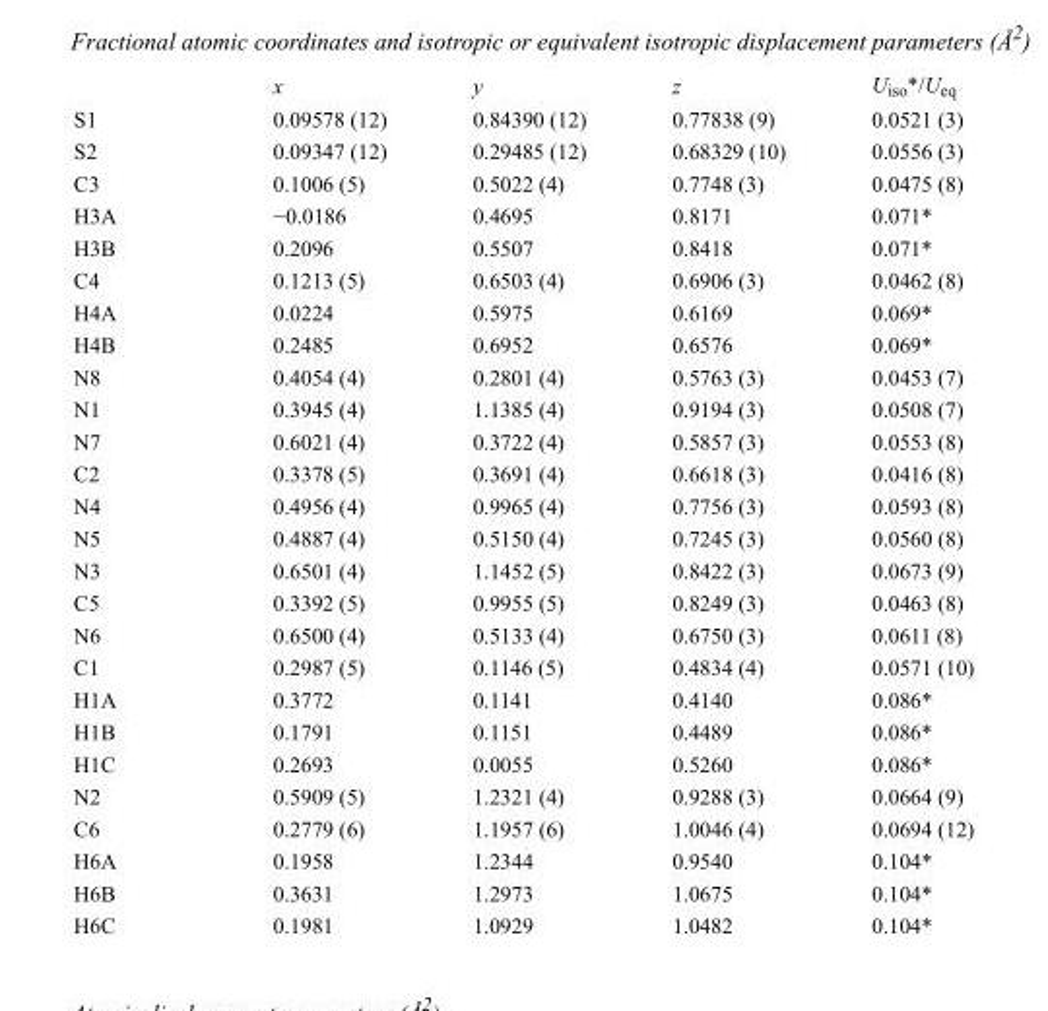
<table><thead><tr><td></td><td>x</td><td>y</td><td>z</td><td>U<sub>iso</sub>*/U<sub>eq</sub></td></tr></thead><tbody><tr><td>S1</td><td>0.09578 (12)</td><td>0.84390 (12)</td><td>0.77838 (9)</td><td>0.0521 (3)</td></tr><tr><td>S2</td><td>0.09347 (12)</td><td>0.29485 (12)</td><td>0.68329 (10)</td><td>0.0556 (3)</td></tr><tr><td>C3</td><td>0.1006 (5)</td><td>0.5022 (4)</td><td>0.7748 (3)</td><td>0.0475 (8)</td></tr><tr><td>H3A</td><td>−0.0186</td><td>0.4695</td><td>0.8171</td><td>0.071*</td></tr><tr><td>H3B</td><td>0.2096</td><td>0.5507</td><td>0.8418</td><td>0.071*</td></tr><tr><td>C4</td><td>0.1213 (5)</td><td>0.6503 (4)</td><td>0.6906 (3)</td><td>0.0462 (8)</td></tr><tr><td>H4A</td><td>0.0224</td><td>0.5975</td><td>0.6169</td><td>0.069*</td></tr><tr><td>H4B</td><td>0.2485</td><td>0.6952</td><td>0.6576</td><td>0.069*</td></tr><tr><td>N8</td><td>0.4054 (4)</td><td>0.2801 (4)</td><td>0.5763 (3)</td><td>0.0453 (7)</td></tr><tr><td>N1</td><td>0.3945 (4)</td><td>1.1385 (4)</td><td>0.9194 (3)</td><td>0.0508 (7)</td></tr><tr><td>N7</td><td>0.6021 (4)</td><td>0.3722 (4)</td><td>0.5857 (3)</td><td>0.0553 (8)</td></tr><tr><td>C2</td><td>0.3378 (5)</td><td>0.3691 (4)</td><td>0.6618 (3)</td><td>0.0416 (8)</td></tr><tr><td>N4</td><td>0.4956 (4)</td><td>0.9965 (4)</td><td>0.7756 (3)</td><td>0.0593 (8)</td></tr><tr><td>N5</td><td>0.4887 (4)</td><td>0.5150 (4)</td><td>0.7245 (3)</td><td>0.0560 (8)</td></tr><tr><td>N3</td><td>0.6501 (4)</td><td>1.1452 (5)</td><td>0.8422 (3)</td><td>0.0673 (9)</td></tr><tr><td>C5</td><td>0.3392 (5)</td><td>0.9955 (5)</td><td>0.8249 (3)</td><td>0.0463 (8)</td></tr><tr><td>N6</td><td>0.6500 (4)</td><td>0.5133 (4)</td><td>0.6750 (3)</td><td>0.0611 (8)</td></tr><tr><td>C1</td><td>0.2987 (5)</td><td>0.1146 (5)</td><td>0.4834 (4)</td><td>0.0571 (10)</td></tr><tr><td>H1A</td><td>0.3772</td><td>0.1141</td><td>0.4140</td><td>0.086*</td></tr><tr><td>H1B</td><td>0.1791</td><td>0.1151</td><td>0.4489</td><td>0.086*</td></tr><tr><td>H1C</td><td>0.2693</td><td>0.0055</td><td>0.5260</td><td>0.086*</td></tr><tr><td>N2</td><td>0.5909 (5)</td><td>1.2321 (4)</td><td>0.9288 (3)</td><td>0.0664 (9)</td></tr><tr><td>C6</td><td>0.2779 (6)</td><td>1.1957 (6)</td><td>1.0046 (4)</td><td>0.0694 (12)</td></tr><tr><td>H6A</td><td>0.1958</td><td>1.2344</td><td>0.9540</td><td>0.104*</td></tr><tr><td>H6B</td><td>0.3631</td><td>1.2973</td><td>1.0675</td><td>0.104*</td></tr><tr><td>H6C</td><td>0.1981</td><td>1.0929</td><td>1.0482</td><td>0.104*</td></tr></tbody></table>